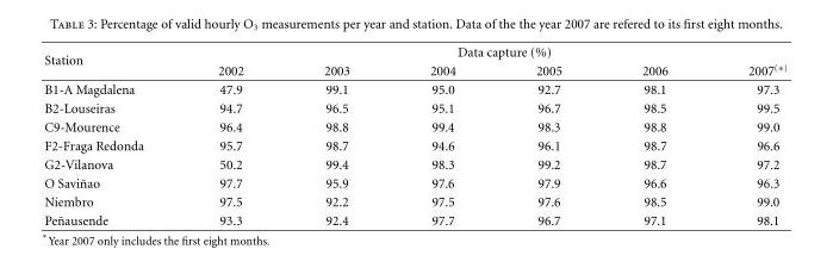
<table><thead><tr><td rowspan="2">Station</td><td colspan="6">Data capture (%)</td></tr><tr><td>2002</td><td>2003</td><td>2004</td><td>2005</td><td>2006</td><td>2007<sup>(∗)</sup></td></tr></thead><tbody><tr><td>B1-A Magdalena</td><td>47.9</td><td>99.1</td><td>95.0</td><td>92.7</td><td>98.1</td><td>97.3</td></tr><tr><td>B2-Louseiras</td><td>94.7</td><td>96.5</td><td>95.1</td><td>96.7</td><td>98.5</td><td>99.5</td></tr><tr><td>C9-Mourence</td><td>96.4</td><td>98.8</td><td>99.4</td><td>98.3</td><td>98.8</td><td>99.0</td></tr><tr><td>F2-Fraga Redonda</td><td>95.7</td><td>98.7</td><td>94.6</td><td>96.1</td><td>98.7</td><td>96.6</td></tr><tr><td>G2-Vilanova</td><td>50.2</td><td>99.4</td><td>98.3</td><td>99.2</td><td>98.7</td><td>97.2</td></tr><tr><td>O Savi˜nao</td><td>97.7</td><td>95.9</td><td>97.6</td><td>97.9</td><td>96.6</td><td>96.3</td></tr><tr><td>Niembro</td><td>97.5</td><td>92.2</td><td>97.5</td><td>97.6</td><td>98.5</td><td>99.0</td></tr><tr><td>Pe˜nausende</td><td>93.3</td><td>92.4</td><td>97.7</td><td>96.7</td><td>97.1</td><td>98.1</td></tr></tbody></table>